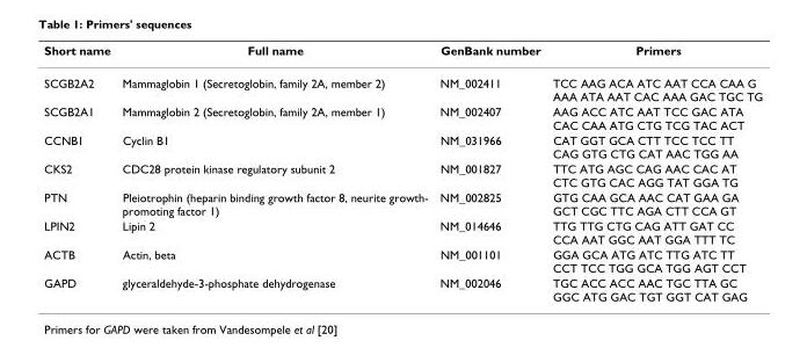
<table><thead><tr><td>Short name</td><td>Full name</td><td>GenBank number</td><td>Primers</td></tr></thead><tbody><tr><td>SCGB2A2</td><td>Mammaglobin 1 (Secretoglobin, family 2A, member 2)</td><td>NM_002411</td><td>TCC AAG ACA ATC AAT CCA CAA G AAA ATA AAT CAC AAA GAC TGC TG</td></tr><tr><td>SCGB2A1</td><td>Mammaglobin 2 (Secretoglobin, family 2A, member 1)</td><td>NM_002407</td><td>AAG ACC ATC AAT TCC GAC ATA CAC CAA ATG CTG TCG TAC ACT</td></tr><tr><td>CCNB1</td><td>Cyclin B1</td><td>NM_031966</td><td>CAT GGT GCA CTT TCC TCC TT CAG GTG CTG CAT AAC TGG AA</td></tr><tr><td>CKS2</td><td>CDC28 protein kinase regulatory subunit 2</td><td>NM_001827</td><td>TTC ATG AGC CAG AAC CAC AT CTC GTG CAC AGG TAT GGA TG</td></tr><tr><td>PTN</td><td>Pleiotrophin (heparin binding growth factor 8, neurite growth- promoting factor 1)</td><td>NM_002825</td><td>GTG CAA GCA AAC CAT GAA GA GCT CGC TTC AGA CTT CCA GT</td></tr><tr><td>LPIN2</td><td>Lipin 2</td><td>NM_014646</td><td>TTG TTG CTG CAG ATT GAT CC CCA AAT GGC AAT GGA TTT TC</td></tr><tr><td>ACTB</td><td>Actin, beta</td><td>NM_001101</td><td>GGA GCA ATG ATC TTG ATC TT CCT TCC TGG GCA TGG AGT CCT</td></tr><tr><td>GAPD</td><td>glyceraldehyde-3-phosphate dehydrogenase</td><td>NM_002046</td><td>TGC ACC ACC AAC TGC TTA GC GGC ATG GAC TGT GGT CAT GAG</td></tr></tbody></table>